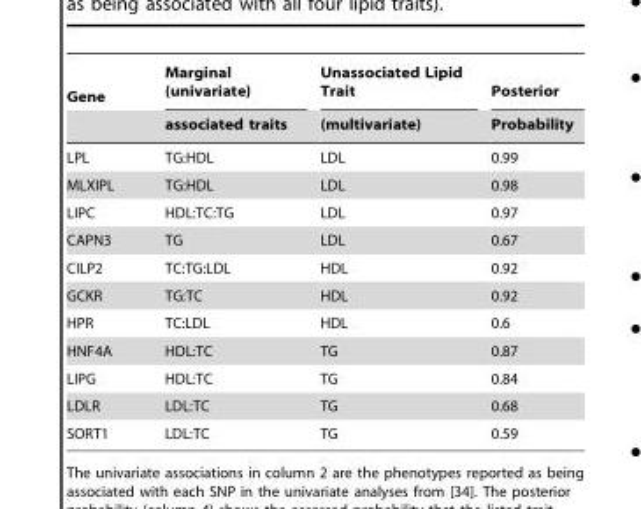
<table><thead><tr><td rowspan="2">Gene</td><td rowspan="2">Marginal (univariate) associated traits</td><td rowspan="2">Unassociated Lipid Trait (multivariate)</td><td rowspan="2">Posterior Probability</td></tr><tr></tr></thead><tbody><tr><td>LPL</td><td>TG:HDL</td><td>LDL</td><td>0.99</td></tr><tr><td>MLXIPL</td><td>TG:HDL</td><td>LDL</td><td>0.98</td></tr><tr><td>LIPC</td><td>HDL:TC:TG</td><td>LDL</td><td>0.97</td></tr><tr><td>CAPN3</td><td>TG</td><td>LDL</td><td>0.67</td></tr><tr><td>CILP2</td><td>TC:TG:LDL</td><td>HDL</td><td>0.92</td></tr><tr><td>GCKR</td><td>TG:TC</td><td>HDL</td><td>0.92</td></tr><tr><td>HPR</td><td>TC:LDL</td><td>HDL</td><td>0.6</td></tr><tr><td>HNF4A</td><td>HDL:TC</td><td>TG</td><td>0.87</td></tr><tr><td>LIPG</td><td>HDL:TC</td><td>TG</td><td>0.84</td></tr><tr><td>LDLR</td><td>LDL:TC</td><td>TG</td><td>0.68</td></tr><tr><td>SORT1</td><td>LDL:TC</td><td>TG</td><td>0.59</td></tr></tbody></table>